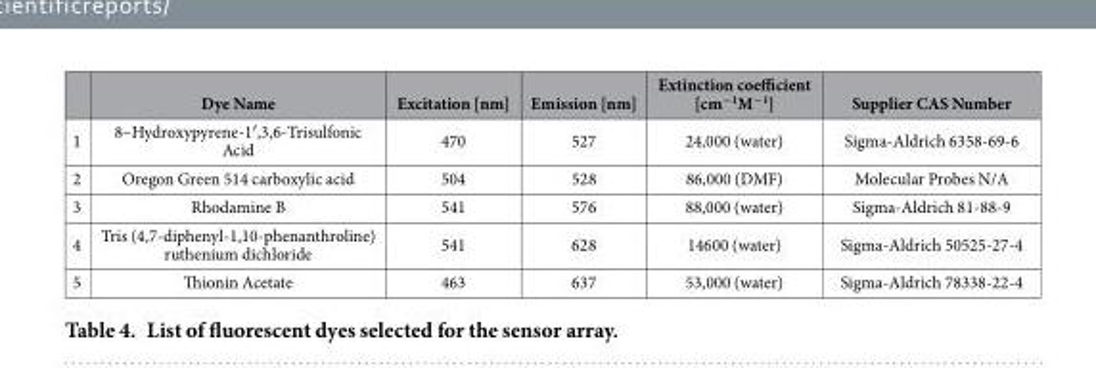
<table><thead><tr><td></td><td>Dye Name</td><td>Excitation [nm]</td><td>Emission [nm]</td><td>Extinction coefficient [cm<sup>−1</sup>M<sup>−1</sup>]</td><td>Supplier CAS Number</td></tr></thead><tbody><tr><td>1</td><td>8–Hydroxypyrene-1′,3,6-Trisulfonic Acid</td><td>470</td><td>527</td><td>24,000 (water)</td><td>Sigma-Aldrich 6358-69-6</td></tr><tr><td>2</td><td>Oregon Green 514 carboxylic acid</td><td>504</td><td>528</td><td>86,000 (DMF)</td><td>Molecular Probes N/A</td></tr><tr><td>3</td><td>Rhodamine B</td><td>541</td><td>576</td><td>88,000 (water)</td><td>Sigma-Aldrich 81-88-9</td></tr><tr><td>4</td><td>Tris (4,7-diphenyl-1,10-phenanthroline) ruthenium dichloride</td><td>541</td><td>628</td><td>14600 (water)</td><td>Sigma-Aldrich 50525-27-4</td></tr><tr><td>5</td><td>Thionin Acetate</td><td>463</td><td>637</td><td>53,000 (water)</td><td>Sigma-Aldrich 78338-22-4</td></tr></tbody></table>